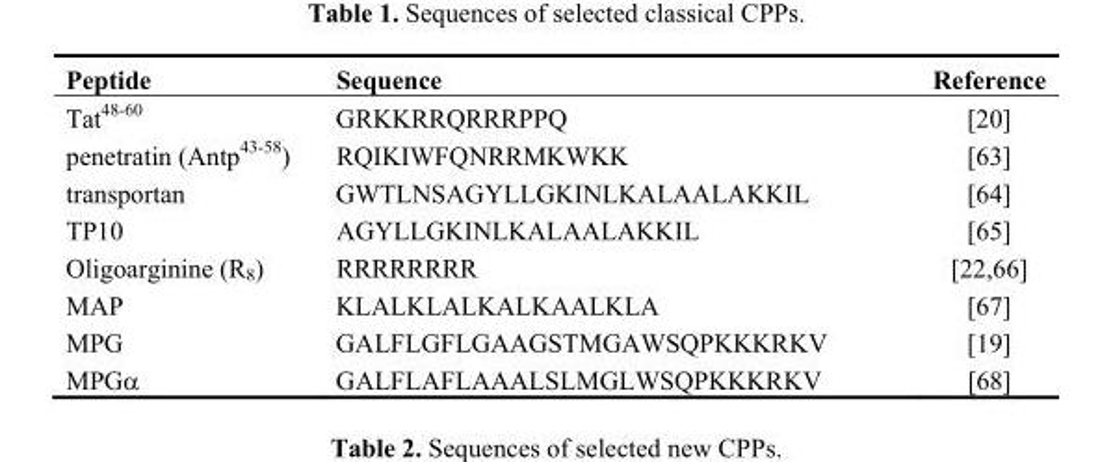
<table><thead><tr><td>Peptide</td><td>Sequence</td><td>Reference</td></tr></thead><tbody><tr><td>Tat<sup>48-60</sup></td><td>GRKKRRQRRRPPQ</td><td>[20]</td></tr><tr><td>penetratin (Antp<sup>43-58</sup>)</td><td>RQIKIWFQNRRMKWKK</td><td>[63]</td></tr><tr><td>transportan</td><td>GWTLNSAGYLLGKINLKALAALAKKIL</td><td>[64]</td></tr><tr><td>TP10</td><td>AGYLLGKINLKALAALAKKIL</td><td>[65]</td></tr><tr><td>Oligoarginine (R<sub>8</sub>)</td><td>RRRRRRRR</td><td>[22,66]</td></tr><tr><td>MAP</td><td>KLALKLALKALKAALKLA</td><td>[67]</td></tr><tr><td>MPG</td><td>GALFLGFLGAAGSTMGAWSQPKKKRKV</td><td>[19]</td></tr><tr><td>MPGα</td><td>GALFLAFLAAALSLMGLWSQPKKKRKV</td><td>[68]</td></tr></tbody></table>